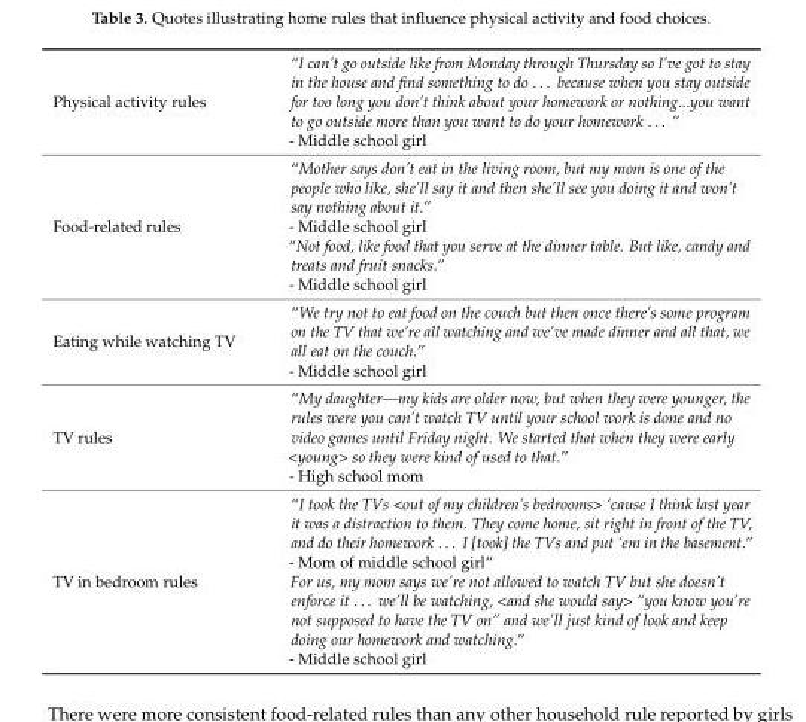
<table><tbody><tr><td>Physical activity rules</td><td>“I can’t go outside like from Monday through Thursday so I’ve got to stay in the house and find something to do . . . because when you stay outside for too long you don’t think about your homework or nothing...you want to go outside more than you want to do your homework . . . ” - Middle school girl</td></tr><tr><td>Food-related rules</td><td>“Mother says don’t eat in the living room, but my mom is one of the people who like, she’ll say it and then she’ll see you doing it and won’t say nothing about it.” - Middle school girl “Not food, like food that you serve at the dinner table. But like, candy and treats and fruit snacks.” - Middle school girl</td></tr><tr><td>Eating while watching TV</td><td>“We try not to eat food on the couch but then once there’s some program on the TV that we’re all watching and we’ve made dinner and all that, we all eat on the couch.” - Middle school girl</td></tr><tr><td>TV rules</td><td>“My daughter—my kids are older now, but when they were younger, the rules were you can’t watch TV until your school work is done and no video games until Friday night. We started that when they were early &lt;young&gt; so they were kind of used to that.” - High school mom</td></tr><tr><td>TV in bedroom rules</td><td>“I took the TVs &lt;out of my children’s bedrooms&gt; ‘cause I think last year it was a distraction to them. They come home, sit right in front of the TV, and do their homework . . . I [took] the TVs and put ‘em in the basement.” - Mom of middle school girl“ For us, my mom says we’re not allowed to watch TV but she doesn’t enforce it . . . we’ll be watching, &lt;and she would say&gt; “you know you’re not supposed to have the TV on” and we’ll just kind of look and keep doing our homework and watching.” - Middle school girl</td></tr></tbody></table>